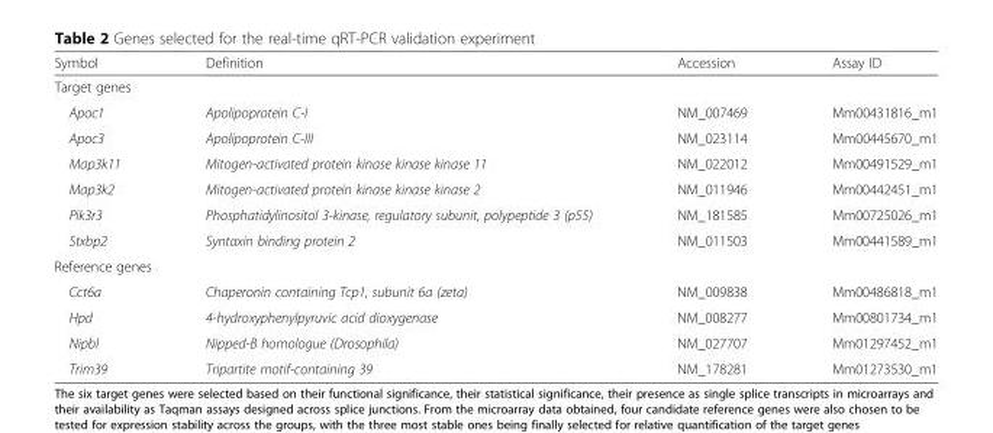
<table><thead><tr><td>Symbol</td><td>Definition</td><td>Accession</td><td>Assay ID</td></tr></thead><tbody><tr><td colspan="4">Target genes</td></tr><tr><td>Apoc1</td><td>Apolipoprotein C-I</td><td>NM_007469</td><td>Mm00431816_m1</td></tr><tr><td>Apoc3</td><td>Apolipoprotein C-III</td><td>NM_023114</td><td>Mm00445670_m1</td></tr><tr><td>Map3k11</td><td>Mitogen-activated protein kinase kinase kinase 11</td><td>NM_022012</td><td>Mm00491529_m1</td></tr><tr><td>Map3k2</td><td>Mitogen-activated protein kinase kinase kinase 2</td><td>NM_011946</td><td>Mm00442451_m1</td></tr><tr><td>Pik3r3</td><td>Phosphatidylinositol 3-kinase, regulatory subunit, polypeptide 3 (p55)</td><td>NM_181585</td><td>Mm00725026_m1</td></tr><tr><td>Stxbp2</td><td>Syntaxin binding protein 2</td><td>NM_011503</td><td>Mm00441589_m1</td></tr><tr><td colspan="4">Reference genes</td></tr><tr><td>Cct6a</td><td>Chaperonin containing Tcp1, subunit 6a (zeta)</td><td>NM_009838</td><td>Mm00486818_m1</td></tr><tr><td>Hpd</td><td>4-hydroxyphenylpyruvic acid dioxygenase</td><td>NM_008277</td><td>Mm00801734_m1</td></tr><tr><td>Nipbl</td><td>Nipped-B homologue (Drosophila)</td><td>NM_027707</td><td>Mm01297452_m1</td></tr><tr><td>Trim39</td><td>Tripartite motif-containing 39</td><td>NM_178281</td><td>Mm01273530_m1</td></tr></tbody></table>